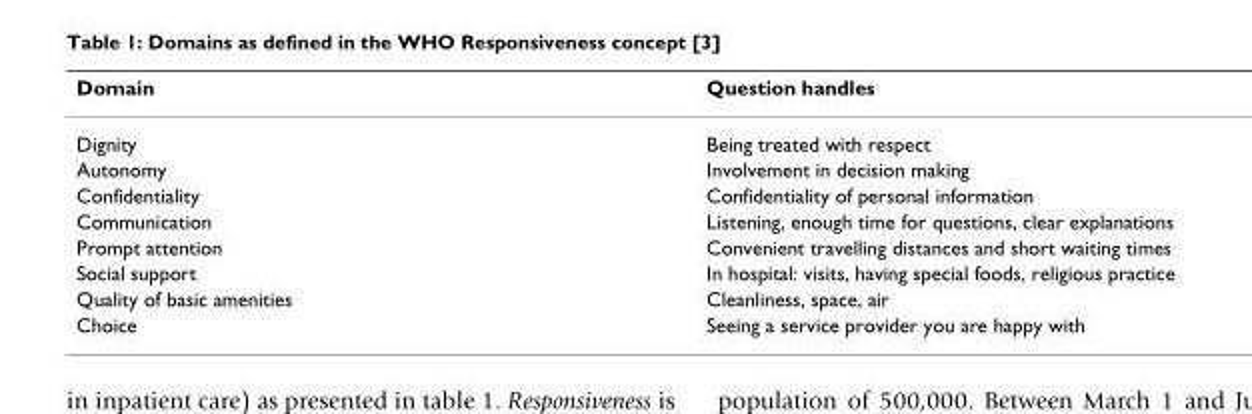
<table><thead><tr><td>Domain</td><td>Question handles</td></tr></thead><tbody><tr><td>Dignity</td><td>Being treated with respect</td></tr><tr><td>Autonomy</td><td>Involvement in decision making</td></tr><tr><td>Confidentiality</td><td>Confidentiality of personal information</td></tr><tr><td>Communication</td><td>Listening, enough time for questions, clear explanations</td></tr><tr><td>Prompt attention</td><td>Convenient travelling distances and short waiting times</td></tr><tr><td>Social support</td><td>In hospital: visits, having special foods, religious practice</td></tr><tr><td>Quality of basic amenities</td><td>Cleanliness, space, air</td></tr><tr><td>Choice</td><td>Seeing a service provider you are happy with</td></tr></tbody></table>